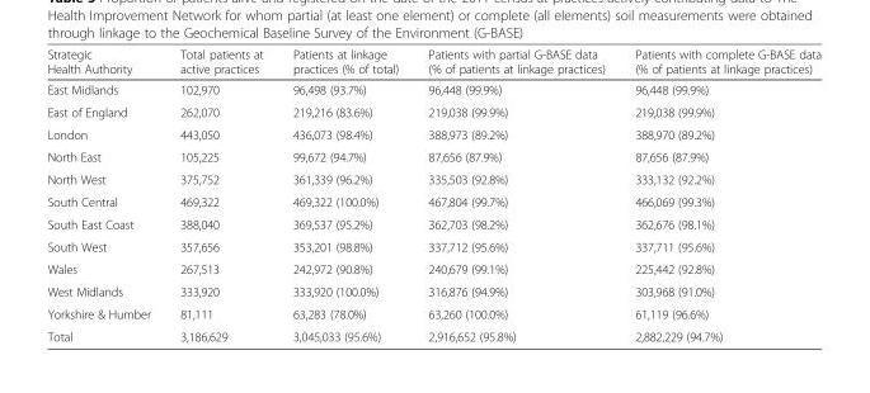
<table><thead><tr><td>Strategic Health Authority</td><td>Total patients at active practices</td><td>Patients at linkage practices (% of total)</td><td>Patients with partial G-BASE data (% of patients at linkage practices)</td><td>Patients with complete G-BASE data (% of patients at linkage practices)</td></tr></thead><tbody><tr><td>East Midlands</td><td>102,970</td><td>96,498 (93.7%)</td><td>96,448 (99.9%)</td><td>96,448 (99.9%)</td></tr><tr><td>East of England</td><td>262,070</td><td>219,216 (83.6%)</td><td>219,038 (99.9%)</td><td>219,038 (99.9%)</td></tr><tr><td>London</td><td>443,050</td><td>436,073 (98.4%)</td><td>388,973 (89.2%)</td><td>388,970 (89.2%)</td></tr><tr><td>North East</td><td>105,225</td><td>99,672 (94.7%)</td><td>87,656 (87.9%)</td><td>87,656 (87.9%)</td></tr><tr><td>North West</td><td>375,752</td><td>361,339 (96.2%)</td><td>335,503 (92.8%)</td><td>333,132 (92.2%)</td></tr><tr><td>South Central</td><td>469,322</td><td>469,322 (100.0%)</td><td>467,804 (99.7%)</td><td>466,069 (99.3%)</td></tr><tr><td>South East Coast</td><td>388,040</td><td>369,537 (95.2%)</td><td>362,703 (98.2%)</td><td>362,676 (98.1%)</td></tr><tr><td>South West</td><td>357,656</td><td>353,201 (98.8%)</td><td>337,712 (95.6%)</td><td>337,711 (95.6%)</td></tr><tr><td>Wales</td><td>267,513</td><td>242,972 (90.8%)</td><td>240,679 (99.1%)</td><td>225,442 (92.8%)</td></tr><tr><td>West Midlands</td><td>333,920</td><td>333,920 (100.0%)</td><td>316,876 (94.9%)</td><td>303,968 (91.0%)</td></tr><tr><td>Yorkshire &amp; Humber</td><td>81,111</td><td>63,283 (78.0%)</td><td>63,260 (100.0%)</td><td>61,119 (96.6%)</td></tr><tr><td>Total</td><td>3,186,629</td><td>3,045,033 (95.6%)</td><td>2,916,652 (95.8%)</td><td>2,882,229 (94.7%)</td></tr></tbody></table>